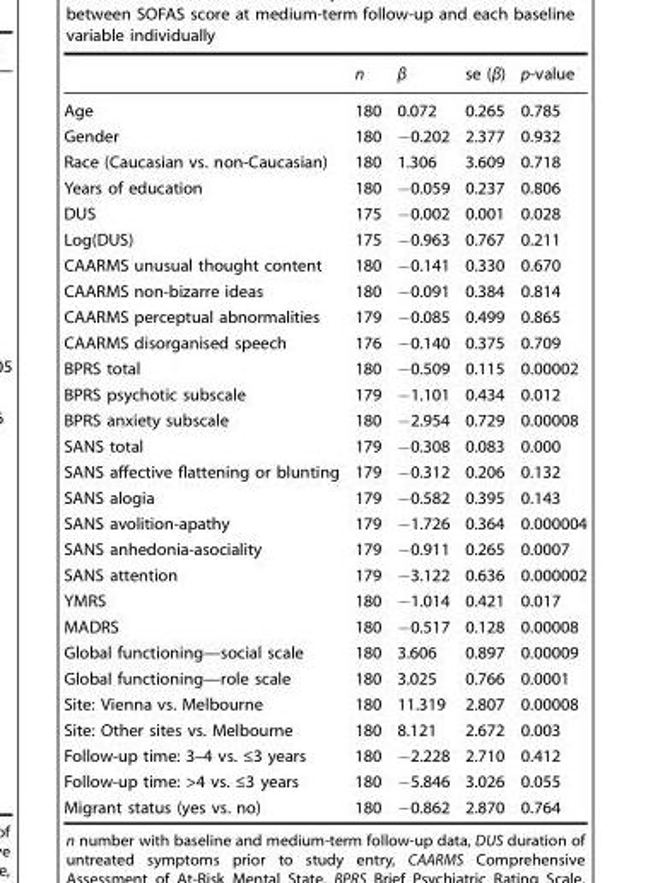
<table><thead><tr><td></td><td>n</td><td>β</td><td>se (β)</td><td>p-value</td></tr></thead><tbody><tr><td>Age</td><td>180</td><td>0.072</td><td>0.265</td><td>0.785</td></tr><tr><td>Gender</td><td>180</td><td>−0.202</td><td>2.377</td><td>0.932</td></tr><tr><td>Race (Caucasian vs. non-Caucasian)</td><td>180</td><td>1.306</td><td>3.609</td><td>0.718</td></tr><tr><td>Years of education</td><td>180</td><td>−0.059</td><td>0.237</td><td>0.806</td></tr><tr><td>DUS</td><td>175</td><td>−0.002</td><td>0.001</td><td>0.028</td></tr><tr><td>Log(DUS)</td><td>175</td><td>−0.963</td><td>0.767</td><td>0.211</td></tr><tr><td>CAARMS unusual thought content</td><td>180</td><td>−0.141</td><td>0.330</td><td>0.670</td></tr><tr><td>CAARMS non-bizarre ideas</td><td>180</td><td>−0.091</td><td>0.384</td><td>0.814</td></tr><tr><td>CAARMS perceptual abnormalities</td><td>179</td><td>−0.085</td><td>0.499</td><td>0.865</td></tr><tr><td>CAARMS disorganised speech</td><td>176</td><td>−0.140</td><td>0.375</td><td>0.709</td></tr><tr><td>BPRS total</td><td>180</td><td>−0.509</td><td>0.115</td><td>0.00002</td></tr><tr><td>BPRS psychotic subscale</td><td>179</td><td>−1.101</td><td>0.434</td><td>0.012</td></tr><tr><td>BPRS anxiety subscale</td><td>180</td><td>−2.954</td><td>0.729</td><td>0.00008</td></tr><tr><td>SANS total</td><td>179</td><td>−0.308</td><td>0.083</td><td>0.000</td></tr><tr><td>SANS affective flattening or blunting</td><td>179</td><td>−0.312</td><td>0.206</td><td>0.132</td></tr><tr><td>SANS alogia</td><td>179</td><td>−0.582</td><td>0.395</td><td>0.143</td></tr><tr><td>SANS avolition-apathy</td><td>179</td><td>−1.726</td><td>0.364</td><td>0.000004</td></tr><tr><td>SANS anhedonia-asociality</td><td>179</td><td>−0.911</td><td>0.265</td><td>0.0007</td></tr><tr><td>SANS attention</td><td>179</td><td>−3.122</td><td>0.636</td><td>0.000002</td></tr><tr><td>YMRS</td><td>180</td><td>−1.014</td><td>0.421</td><td>0.017</td></tr><tr><td>MADRS</td><td>180</td><td>−0.517</td><td>0.128</td><td>0.00008</td></tr><tr><td>Global functioning—social scale</td><td>180</td><td>3.606</td><td>0.897</td><td>0.00009</td></tr><tr><td>Global functioning—role scale</td><td>180</td><td>3.025</td><td>0.766</td><td>0.0001</td></tr><tr><td>Site: Vienna vs. Melbourne</td><td>180</td><td>11.319</td><td>2.807</td><td>0.00008</td></tr><tr><td>Site: Other sites vs. Melbourne</td><td>180</td><td>8.121</td><td>2.672</td><td>0.003</td></tr><tr><td>Follow-up time: 3–4 vs. ≤3 years</td><td>180</td><td>−2.228</td><td>2.710</td><td>0.412</td></tr><tr><td>Follow-up time: &gt;4 vs. ≤3 years</td><td>180</td><td>−5.846</td><td>3.026</td><td>0.055</td></tr><tr><td>Migrant status (yes vs. no)</td><td>180</td><td>−0.862</td><td>2.870</td><td>0.764</td></tr></tbody></table>